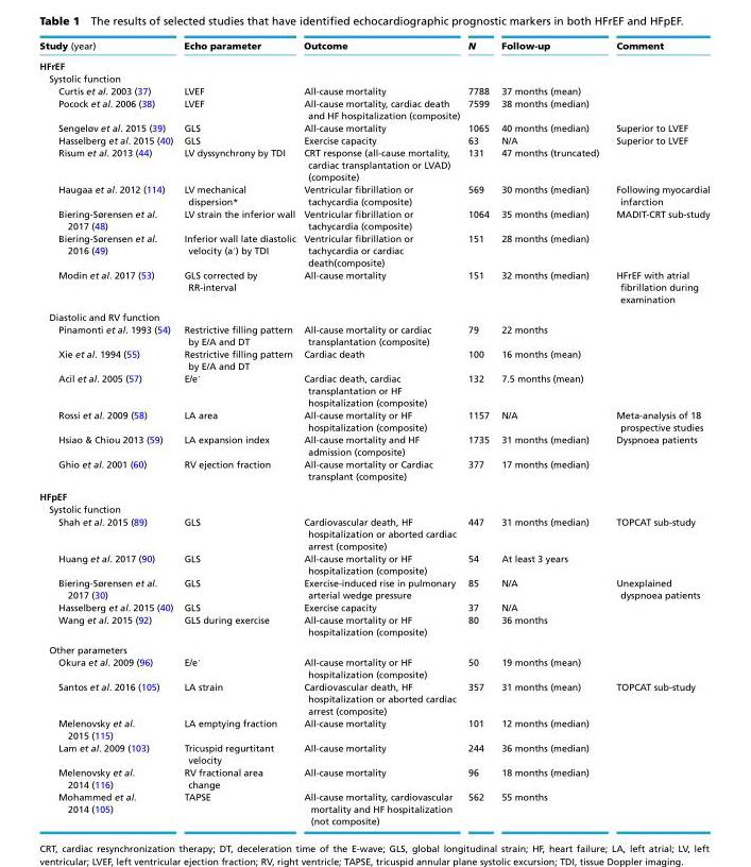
<table><thead><tr><td>Study (year)</td><td>Echo parameter</td><td>Outcome</td><td>N</td><td>Follow-up</td><td>Comment</td></tr></thead><tbody><tr><td colspan="6">HFrEF</td></tr><tr><td colspan="6">Systolic function</td></tr><tr><td>Curtis et al. 2003 (37)</td><td>LVEF</td><td>All-cause mortality</td><td>7788</td><td>37 months (mean)</td><td></td></tr><tr><td>Pocock et al. 2006 (38)</td><td>LVEF</td><td>All-cause mortality, cardiac death and HF hospitalization (composite)</td><td>7599</td><td>38 months (median)</td><td></td></tr><tr><td>Sengeløv et al. 2015 (39)</td><td>GLS</td><td>All-cause mortality</td><td>1065</td><td>40 months (median)</td><td>Superior to LVEF</td></tr><tr><td>Hasselberg et al. 2015 (40)</td><td>GLS</td><td>Exercise capacity</td><td>63</td><td>N/A</td><td>Superior to LVEF</td></tr><tr><td>Risum et al. 2013 (44)</td><td>LV dyssynchrony by TDI</td><td>CRT response (all-cause mortality, cardiac transplantation or LVAD) (composite)</td><td>131</td><td>47 months (truncated)</td><td></td></tr><tr><td>Haugaa et al. 2012 (114)</td><td>LV mechanical dispersion*</td><td>Ventricular fibrillation or tachycardia (composite)</td><td>569</td><td>30 months (median)</td><td>Following myocardial infarction</td></tr><tr><td>Biering-Sørensen et al. 2017 (48)</td><td>LV strain the inferior wall</td><td>Ventricular fibrillation or tachycardia (composite)</td><td>1064</td><td>35 months (median)</td><td>MADIT-CRT sub-study</td></tr><tr><td>Biering-Sørensen et al. 2016 (49)</td><td>Inferior wall late diastolic velocity (a′) by TDI</td><td>Ventricular fibrillation or tachycardia or cardiac death(composite)</td><td>151</td><td>28 months (median)</td><td></td></tr><tr><td>Modin et al. 2017 (53)</td><td>GLS corrected by RR-interval</td><td>All-cause mortality</td><td>151</td><td>32 months (median)</td><td>HFrEF with atrial fibrillation during examination</td></tr><tr><td colspan="6">Diastolic and RV function</td></tr><tr><td>Pinamonti et al. 1993 (54)</td><td>Restrictive filling pattern by E/A and DT</td><td>All-cause mortality or cardiac transplantation (composite)</td><td>79</td><td>22 months</td><td></td></tr><tr><td>Xie et al. 1994 (55)</td><td>Restrictive filling pattern by E/A and DT</td><td>Cardiac death</td><td>100</td><td>16 months (mean)</td><td></td></tr><tr><td>Acil et al. 2005 (57)</td><td>E/e′</td><td>Cardiac death, cardiac transplantation or HF hospitalization (composite)</td><td>132</td><td>7.5 months (mean)</td><td></td></tr><tr><td>Rossi et al. 2009 (58)</td><td>LA area</td><td>All-cause mortality or HF hospitalization (composite)</td><td>1157</td><td>N/A</td><td>Meta-analysis of 18 prospective studies</td></tr><tr><td>Hsiao &amp; Chiou 2013 (59)</td><td>LA expansion index</td><td>All-cause mortality and HF admission (composite)</td><td>1735</td><td>31 months (median)</td><td>Dyspnoea patients</td></tr><tr><td>Ghio et al. 2001 (60)</td><td>RV ejection fraction</td><td>All-cause mortality or Cardiac transplant (composite)</td><td>377</td><td>17 months (median)</td><td></td></tr><tr><td colspan="6">HFpEF</td></tr><tr><td colspan="6">Systolic function</td></tr><tr><td>Shah et al. 2015 (89)</td><td>GLS</td><td>Cardiovascular death, HF hospitalization or aborted cardiac arrest (composite)</td><td>447</td><td>31 months (median)</td><td>TOPCAT sub-study</td></tr><tr><td>Huang et al. 2017 (90)</td><td>GLS</td><td>All-cause mortality or HF hospitalization (composite)</td><td>54</td><td>At least 3 years</td><td></td></tr><tr><td>Biering-Sørensen et al. 2017 (30)</td><td>GLS</td><td>Exercise-induced rise in pulmonary arterial wedge pressure</td><td>85</td><td>N/A</td><td>Unexplained dyspnoea patients</td></tr><tr><td>Hasselberg et al. 2015 (40)</td><td>GLS</td><td>Exercise capacity</td><td>37</td><td>N/A</td><td></td></tr><tr><td>Wang et al. 2015 (92)</td><td>GLS during exercise</td><td>All-cause mortality or HF hospitalization (composite)</td><td>80</td><td>36 months</td><td></td></tr><tr><td colspan="6">Other parameters</td></tr><tr><td>Okura et al. 2009 (96)</td><td>E/e′</td><td>All-cause mortality or HF hospitalization (composite)</td><td>50</td><td>19 months (mean)</td><td></td></tr><tr><td>Santos et al. 2016 (105)</td><td>LA strain</td><td>Cardiovascular death, HF hospitalization or aborted cardiac arrest (composite)</td><td>357</td><td>31 months (mean)</td><td>TOPCAT sub-study</td></tr><tr><td>Melenovsky et al. 2015 (115)</td><td>LA emptying fraction</td><td>All-cause mortality</td><td>101</td><td>12 months (median)</td><td></td></tr><tr><td>Lam et al. 2009 (103)</td><td>Tricuspid regurtitant velocity</td><td>All-cause mortality</td><td>244</td><td>36 months (median)</td><td></td></tr><tr><td>Melenovsky et al. 2014 (116)</td><td>RV fractional area change</td><td>All-cause mortality</td><td>96</td><td>18 months (median)</td><td></td></tr><tr><td>Mohammed et al. 2014 (105)</td><td>TAPSE</td><td>All-cause mortality, cardiovascular mortality and HF hospitalization (not composite)</td><td>562</td><td>55 months</td><td></td></tr></tbody></table>